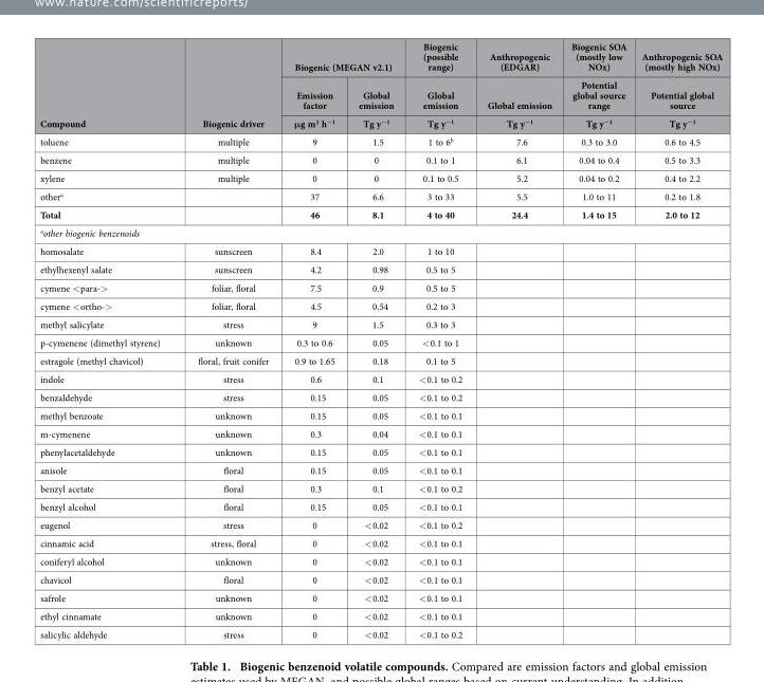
<table><thead><tr><td rowspan="3">Compound</td><td rowspan="3">Biogenic driver</td><td colspan="2">Biogenic (MEGAN v2.1)</td><td rowspan="3">Biogenic (possible range) Global emission Tg y<sup>−1</sup></td><td rowspan="3">Anthropogenic (EDGAR) Global emission Tg y<sup>−1</sup></td><td rowspan="3">Biogenic SOA (mostly low NOx) Potential global source range Tg y<sup>−1</sup></td><td rowspan="3">Anthropogenic SOA (mostly high NOx) Potential global source Tg y<sup>−1</sup></td></tr><tr><td rowspan="2">Emission factor μg m<sup>2</sup> h<sup>−1</sup></td><td rowspan="2">Global emission Tg y<sup>−1</sup></td></tr><tr></tr></thead><tbody><tr><td>toluene</td><td>multiple</td><td>9</td><td>1.5</td><td>1 to 6<sup>b</sup></td><td>7.6</td><td>0.3 to 3.0</td><td>0.6 to 4.5</td></tr><tr><td>benzene</td><td>multiple</td><td>0</td><td>0</td><td>0.1 to 1</td><td>6.1</td><td>0.04 to 0.4</td><td>0.5 to 3.3</td></tr><tr><td>xylene</td><td>multiple</td><td>0</td><td>0</td><td>0.1 to 0.5</td><td>5.2</td><td>0.04 to 0.2</td><td>0.4 to 2.2</td></tr><tr><td>other<sup>a</sup></td><td></td><td>37</td><td>6.6</td><td>3 to 33</td><td>5.5</td><td>1.0 to 11</td><td>0.2 to 1.8</td></tr><tr><td>Total</td><td></td><td>46</td><td>8.1</td><td>4 to 40</td><td>24.4</td><td>1.4 to 15</td><td>2.0 to 12</td></tr><tr><td colspan="8">aother biogenic benzenoids</td></tr><tr><td>homosalate</td><td>sunscreen</td><td>8.4</td><td>2.0</td><td>1 to 10</td><td></td><td></td><td></td></tr><tr><td>ethylhexenyl salate</td><td>sunscreen</td><td>4.2</td><td>0.98</td><td>0.5 to 5</td><td></td><td></td><td></td></tr><tr><td>cymene &lt; para-&gt;</td><td>foliar, floral</td><td>7.5</td><td>0.9</td><td>0.5 to 5</td><td></td><td></td><td></td></tr><tr><td>cymene &lt; ortho-&gt;</td><td>foliar, floral</td><td>4.5</td><td>0.54</td><td>0.2 to 3</td><td></td><td></td><td></td></tr><tr><td>methyl salicylate</td><td>stress</td><td>9</td><td>1.5</td><td>0.3 to 3</td><td></td><td></td><td></td></tr><tr><td>p-cymenene (dimethyl styrene)</td><td>unknown</td><td>0.3 to 0.6</td><td>0.05</td><td>&lt; 0.1 to 1</td><td></td><td></td><td></td></tr><tr><td>estragole (methyl chavicol)</td><td>floral, fruit conifer</td><td>0.9 to 1.65</td><td>0.18</td><td>0.1 to 5</td><td></td><td></td><td></td></tr><tr><td>indole</td><td>stress</td><td>0.6</td><td>0.1</td><td>&lt; 0.1 to 0.2</td><td></td><td></td><td></td></tr><tr><td>benzaldehyde</td><td>stress</td><td>0.15</td><td>0.05</td><td>&lt; 0.1 to 0.2</td><td></td><td></td><td></td></tr><tr><td>methyl benzoate</td><td>unknown</td><td>0.15</td><td>0.05</td><td>&lt; 0.1 to 0.1</td><td></td><td></td><td></td></tr><tr><td>m-cymenene</td><td>unknown</td><td>0.3</td><td>0.04</td><td>&lt; 0.1 to 0.1</td><td></td><td></td><td></td></tr><tr><td>phenylacetaldehyde</td><td>unknown</td><td>0.15</td><td>0.05</td><td>&lt; 0.1 to 0.1</td><td></td><td></td><td></td></tr><tr><td>anisole</td><td>floral</td><td>0.15</td><td>0.05</td><td>&lt; 0.1 to 0.1</td><td></td><td></td><td></td></tr><tr><td>benzyl acetate</td><td>floral</td><td>0.3</td><td>0.1</td><td>&lt; 0.1 to 0.2</td><td></td><td></td><td></td></tr><tr><td>benzyl alcohol</td><td>floral</td><td>0.15</td><td>0.05</td><td>&lt; 0.1 to 0.1</td><td></td><td></td><td></td></tr><tr><td>eugenol</td><td>stress</td><td>0</td><td>&lt; 0.02</td><td>&lt; 0.1 to 0.2</td><td></td><td></td><td></td></tr><tr><td>cinnamic acid</td><td>stress, floral</td><td>0</td><td>&lt; 0.02</td><td>&lt; 0.1 to 0.1</td><td></td><td></td><td></td></tr><tr><td>coniferyl alcohol</td><td>unknown</td><td>0</td><td>&lt; 0.02</td><td>&lt; 0.1 to 0.1</td><td></td><td></td><td></td></tr><tr><td>chavicol</td><td>floral</td><td>0</td><td>&lt; 0.02</td><td>&lt; 0.1 to 0.1</td><td></td><td></td><td></td></tr><tr><td>safrole</td><td>unknown</td><td>0</td><td>&lt; 0.02</td><td>&lt; 0.1 to 0.1</td><td></td><td></td><td></td></tr><tr><td>ethyl cinnamate</td><td>unknown</td><td>0</td><td>&lt; 0.02</td><td>&lt; 0.1 to 0.1</td><td></td><td></td><td></td></tr><tr><td>salicylic aldehyde</td><td>stress</td><td>0</td><td>&lt; 0.02</td><td>&lt; 0.1 to 0.2</td><td></td><td></td><td></td></tr></tbody></table>